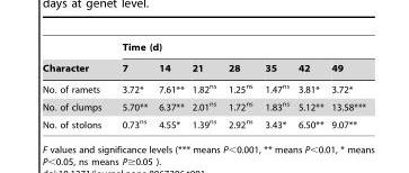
<table><thead><tr><td rowspan="2">Character</td><td colspan="7">Time (d)</td></tr><tr><td>7</td><td>14</td><td>21</td><td>28</td><td>35</td><td>42</td><td>49</td></tr></thead><tbody><tr><td>No. of ramets</td><td>3.72*</td><td>7.61**</td><td>1.82<sup>ns</sup></td><td>1.25<sup>ns</sup></td><td>1.47<sup>ns</sup></td><td>3.81*</td><td>3.72*</td></tr><tr><td>No. of clumps</td><td>5.70**</td><td>6.37**</td><td>2.01<sup>ns</sup></td><td>1.72<sup>ns</sup></td><td>1.83<sup>ns</sup></td><td>5.12**</td><td>13.58***</td></tr><tr><td>No. of stolons</td><td>0.73<sup>ns</sup></td><td>4.55*</td><td>1.39<sup>ns</sup></td><td>2.92<sup>ns</sup></td><td>3.43*</td><td>6.50**</td><td>9.07**</td></tr></tbody></table>